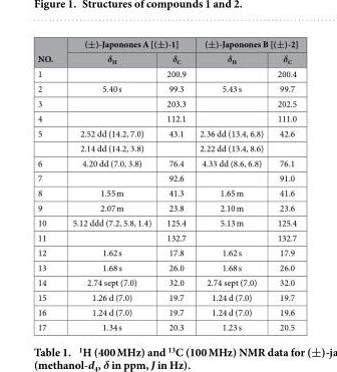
<table><thead><tr><td rowspan="2">NO.</td><td colspan="2">(±)-Japonones A [(±)-1]</td><td colspan="2">(±)-Japonones B [(±)-2]</td></tr><tr><td>δ<sub>H</sub></td><td>δ<sub>C</sub></td><td>δ<sub>H</sub></td><td>δ<sub>C</sub></td></tr></thead><tbody><tr><td>1</td><td></td><td>200.9</td><td></td><td>200.4</td></tr><tr><td>2</td><td>5.40 s</td><td>99.3</td><td>5.43 s</td><td>99.7</td></tr><tr><td>3</td><td></td><td>203.3</td><td></td><td>202.5</td></tr><tr><td>4</td><td></td><td>112.1</td><td></td><td>111.0</td></tr><tr><td rowspan="2">5</td><td>2.52 dd (14.2, 7.0)</td><td>43.1</td><td>2.36 dd (13.4, 6.8)</td><td>42.6</td></tr><tr><td>2.14 dd (14.2, 3.8)</td><td></td><td>2.22 dd (13.4, 8.6)</td><td></td></tr><tr><td>6</td><td>4.20 dd (7.0, 3.8)</td><td>76.4</td><td>4.33 dd (8.6, 6.8)</td><td>76.1</td></tr><tr><td>7</td><td></td><td>92.6</td><td></td><td>91.0</td></tr><tr><td>8</td><td>1.55 m</td><td>41.3</td><td>1.65 m</td><td>41.6</td></tr><tr><td>9</td><td>2.07 m</td><td>23.8</td><td>2.10 m</td><td>23.6</td></tr><tr><td>10</td><td>5.12 ddd (7.2, 5.8, 1.4)</td><td>125.4</td><td>5.13 m</td><td>125.4</td></tr><tr><td>11</td><td></td><td>132.7</td><td></td><td>132.7</td></tr><tr><td>12</td><td>1.62 s</td><td>17.8</td><td>1.62 s</td><td>17.9</td></tr><tr><td>13</td><td>1.68 s</td><td>26.0</td><td>1.68 s</td><td>26.0</td></tr><tr><td>14</td><td>2.74 sept (7.0)</td><td>32.0</td><td>2.74 sept (7.0)</td><td>32.0</td></tr><tr><td>15</td><td>1.26 d (7.0)</td><td>19.7</td><td>1.24 d (7.0)</td><td>19.7</td></tr><tr><td>16</td><td>1.24 d (7.0)</td><td>19.7</td><td>1.24 d (7.0)</td><td>19.6</td></tr><tr><td>17</td><td>1.34 s</td><td>20.3</td><td>1.23 s</td><td>20.5</td></tr></tbody></table>